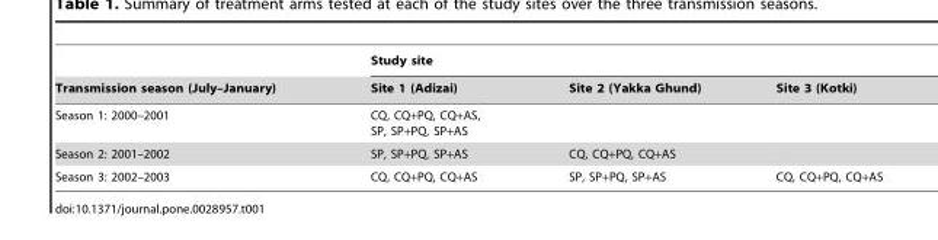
<table><thead><tr><td rowspan="2">Transmission season (July–January)</td><td colspan="3">Study site</td></tr><tr><td>Site 1 (Adizai)</td><td>Site 2 (Yakka Ghund)</td><td>Site 3 (Kotki)</td></tr></thead><tbody><tr><td>Season 1: 2000–2001</td><td>CQ, CQ+PQ, CQ+AS, SP, SP+PQ, SP+AS</td><td></td><td></td></tr><tr><td>Season 2: 2001–2002</td><td>SP, SP+PQ, SP+AS</td><td>CQ, CQ+PQ, CQ+AS</td><td></td></tr><tr><td>Season 3: 2002–2003</td><td>CQ, CQ+PQ, CQ+AS</td><td>SP, SP+PQ, SP+AS</td><td>CQ, CQ+PQ, CQ+AS</td></tr></tbody></table>